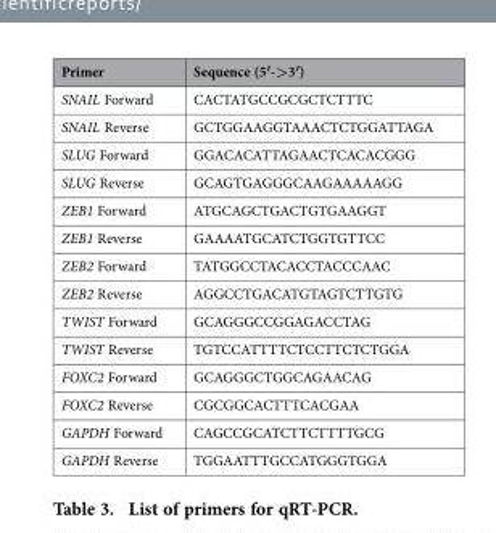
<table><thead><tr><td>Primer</td><td>Sequence (5′-&gt;3′)</td></tr></thead><tbody><tr><td>SNAIL Forward</td><td>CACTATGCCGCGCTCTTTC</td></tr><tr><td>SNAIL Reverse</td><td>GCTGGAAGGTAAACTCTGGATTAGA</td></tr><tr><td>SLUG Forward</td><td>GGACACATTAGAACTCACACGGG</td></tr><tr><td>SLUG Reverse</td><td>GCAGTGAGGGCAAGAAAAAGG</td></tr><tr><td>ZEB1 Forward</td><td>ATGCAGCTGACTGTGAAGGT</td></tr><tr><td>ZEB1 Reverse</td><td>GAAAATGCATCTGGTGTTCC</td></tr><tr><td>ZEB2 Forward</td><td>TATGGCCTACACCTACCCAAC</td></tr><tr><td>ZEB2 Reverse</td><td>AGGCCTGACATGTAGTCTTGTG</td></tr><tr><td>TWIST Forward</td><td>GCAGGGCCGGAGACCTAG</td></tr><tr><td>TWIST Reverse</td><td>TGTCCATTTTCTCCTTCTCTGGA</td></tr><tr><td>FOXC2 Forward</td><td>GCAGGGCTGGCAGAACAG</td></tr><tr><td>FOXC2 Reverse</td><td>CGCGGCACTTTCACGAA</td></tr><tr><td>GAPDH Forward</td><td>CAGCCGCATCTTCTTTTGCG</td></tr><tr><td>GAPDH Reverse</td><td>TGGAATTTGCCATGGGTGGA</td></tr></tbody></table>